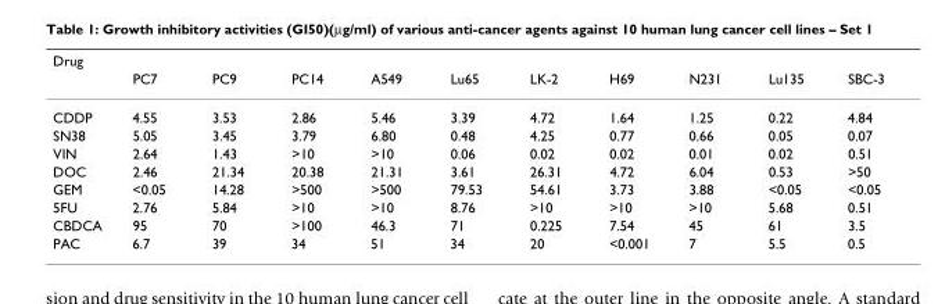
<table><thead><tr><td rowspan="2">Drug</td><td rowspan="2">PC7</td><td rowspan="2">PC9</td><td rowspan="2">PC14</td><td rowspan="2">A549</td><td rowspan="2">Lu65</td><td rowspan="2">LK-2</td><td rowspan="2">H69</td><td rowspan="2">N231</td><td rowspan="2">Lu135</td><td rowspan="2">SBC-3</td></tr><tr></tr></thead><tbody><tr><td>CDDP</td><td>4.55</td><td>3.53</td><td>2.86</td><td>5.46</td><td>3.39</td><td>4.72</td><td>1.64</td><td>1.25</td><td>0.22</td><td>4.84</td></tr><tr><td>SN38</td><td>5.05</td><td>3.45</td><td>3.79</td><td>6.80</td><td>0.48</td><td>4.25</td><td>0.77</td><td>0.66</td><td>0.05</td><td>0.07</td></tr><tr><td>VIN</td><td>2.64</td><td>1.43</td><td>&gt;10</td><td>&gt;10</td><td>0.06</td><td>0.02</td><td>0.02</td><td>0.01</td><td>0.02</td><td>0.51</td></tr><tr><td>DOC</td><td>2.46</td><td>21.34</td><td>20.38</td><td>21.31</td><td>3.61</td><td>26.31</td><td>4.72</td><td>6.04</td><td>0.53</td><td>&gt;50</td></tr><tr><td>GEM</td><td>&lt;0.05</td><td>14.28</td><td>&gt;500</td><td>&gt;500</td><td>79.53</td><td>54.61</td><td>3.73</td><td>3.88</td><td>&lt;0.05</td><td>&lt;0.05</td></tr><tr><td>5FU</td><td>2.76</td><td>5.84</td><td>&gt;10</td><td>&gt;10</td><td>8.76</td><td>&gt;10</td><td>&gt;10</td><td>&gt;10</td><td>5.68</td><td>0.51</td></tr><tr><td>CBDCA</td><td>95</td><td>70</td><td>&gt;100</td><td>46.3</td><td>71</td><td>0.225</td><td>7.54</td><td>45</td><td>61</td><td>3.5</td></tr><tr><td>PAC</td><td>6.7</td><td>39</td><td>34</td><td>51</td><td>34</td><td>20</td><td>&lt;0.001</td><td>7</td><td>5.5</td><td>0.5</td></tr></tbody></table>